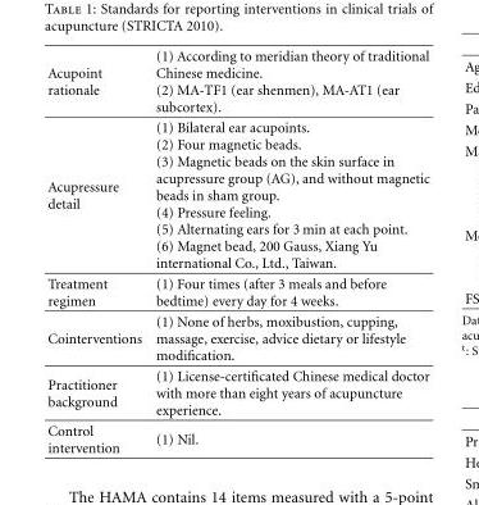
<table><tbody><tr><td>Acupoint rationale</td><td>(1) According to meridian theory of traditional Chinese medicine. (2) MA-TF1 (ear shenmen), MA-AT1 (ear subcortex).</td></tr><tr><td>Acupressure detail</td><td>(1) Bilateral ear acupoints. (2) Four magnetic beads. (3) Magnetic beads on the skin surface in acupressure group (AG), and without magnetic beads in sham group. (4) Pressure feeling. (5) Alternating ears for 3 min at each point. (6) Magnet bead, 200 Gauss, Xiang Yu international Co., Ltd., Taiwan.</td></tr><tr><td>Treatment regimen</td><td>(1) Four times (after 3 meals and before bedtime) every day for 4 weeks.</td></tr><tr><td>Cointerventions</td><td>(1) None of herbs, moxibustion, cupping, massage, exercise, advice dietary or lifestyle modification.</td></tr><tr><td>Practitioner background</td><td>(1) License-certificated Chinese medical doctor with more than eight years of acupuncture experience.</td></tr><tr><td>Control intervention</td><td>(1) Nil.</td></tr></tbody></table>